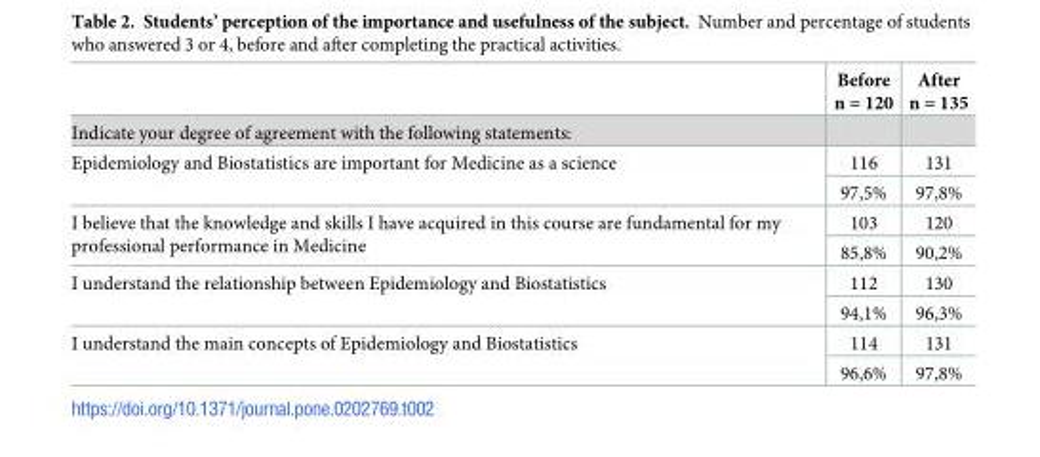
<table><thead><tr><td></td><td>Before n = 120</td><td>After n = 135</td></tr></thead><tbody><tr><td colspan="3">Indicate your degree of agreement with the following statements:</td></tr><tr><td rowspan="2">Epidemiology and Biostatistics are important for Medicine as a science</td><td>116</td><td>131</td></tr><tr><td>97,5%</td><td>97,8%</td></tr><tr><td rowspan="2">I believe that the knowledge and skills I have acquired in this course are fundamental for my professional performance in Medicine</td><td>103</td><td>120</td></tr><tr><td>85,8%</td><td>90,2%</td></tr><tr><td rowspan="2">I understand the relationship between Epidemiology and Biostatistics</td><td>112</td><td>130</td></tr><tr><td>94,1%</td><td>96,3%</td></tr><tr><td rowspan="2">I understand the main concepts of Epidemiology and Biostatistics</td><td>114</td><td>131</td></tr><tr><td>96,6%</td><td>97,8%</td></tr></tbody></table>